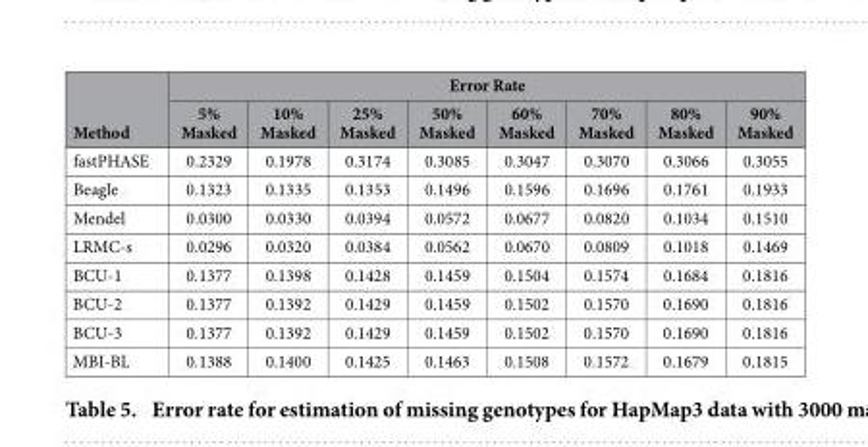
<table><thead><tr><td rowspan="2">Method</td><td colspan="8">Error Rate</td></tr><tr><td>5% Masked</td><td>10% Masked</td><td>25% Masked</td><td>50% Masked</td><td>60% Masked</td><td>70% Masked</td><td>80% Masked</td><td>90% Masked</td></tr></thead><tbody><tr><td>fastPHASE</td><td>0.2329</td><td>0.1978</td><td>0.3174</td><td>0.3085</td><td>0.3047</td><td>0.3070</td><td>0.3066</td><td>0.3055</td></tr><tr><td>Beagle</td><td>0.1323</td><td>0.1335</td><td>0.1353</td><td>0.1496</td><td>0.1596</td><td>0.1696</td><td>0.1761</td><td>0.1933</td></tr><tr><td>Mendel</td><td>0.0300</td><td>0.0330</td><td>0.0394</td><td>0.0572</td><td>0.0677</td><td>0.0820</td><td>0.1034</td><td>0.1510</td></tr><tr><td>LRMC-s</td><td>0.0296</td><td>0.0320</td><td>0.0384</td><td>0.0562</td><td>0.0670</td><td>0.0809</td><td>0.1018</td><td>0.1469</td></tr><tr><td>BCU-1</td><td>0.1377</td><td>0.1398</td><td>0.1428</td><td>0.1459</td><td>0.1504</td><td>0.1574</td><td>0.1684</td><td>0.1816</td></tr><tr><td>BCU-2</td><td>0.1377</td><td>0.1392</td><td>0.1429</td><td>0.1459</td><td>0.1502</td><td>0.1570</td><td>0.1690</td><td>0.1816</td></tr><tr><td>BCU-3</td><td>0.1377</td><td>0.1392</td><td>0.1429</td><td>0.1459</td><td>0.1502</td><td>0.1570</td><td>0.1690</td><td>0.1816</td></tr><tr><td>MBI-BL</td><td>0.1388</td><td>0.1400</td><td>0.1425</td><td>0.1463</td><td>0.1508</td><td>0.1572</td><td>0.1679</td><td>0.1815</td></tr></tbody></table>